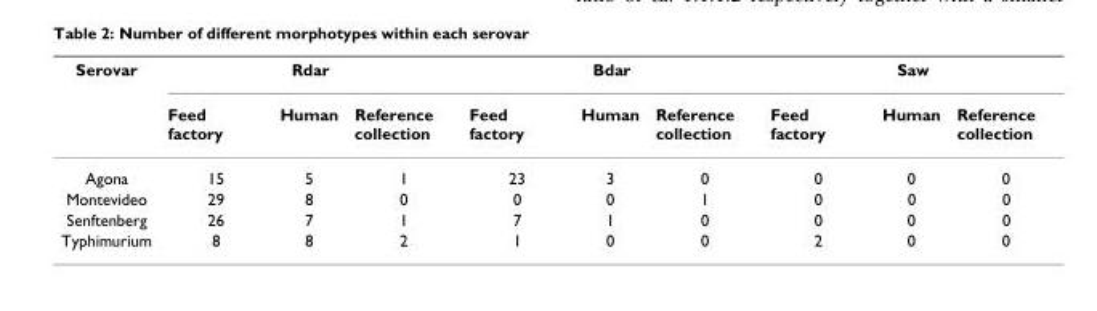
<table><thead><tr><td rowspan="2">Serovar</td><td colspan="3">Rdar</td><td colspan="3">Bdar</td><td colspan="3">Saw</td></tr><tr><td>Feed factory</td><td>Human</td><td>Reference collection</td><td>Feed factory</td><td>Human</td><td>Reference collection</td><td>Feed factory</td><td>Human</td><td>Reference collection</td></tr></thead><tbody><tr><td>Agona</td><td>15</td><td>5</td><td>1</td><td>23</td><td>3</td><td>0</td><td>0</td><td>0</td><td>0</td></tr><tr><td>Montevideo</td><td>29</td><td>8</td><td>0</td><td>0</td><td>0</td><td>1</td><td>0</td><td>0</td><td>0</td></tr><tr><td>Senftenberg</td><td>26</td><td>7</td><td>1</td><td>7</td><td>1</td><td>0</td><td>0</td><td>0</td><td>0</td></tr><tr><td>Typhimurium</td><td>8</td><td>8</td><td>2</td><td>1</td><td>0</td><td>0</td><td>2</td><td>0</td><td>0</td></tr></tbody></table>